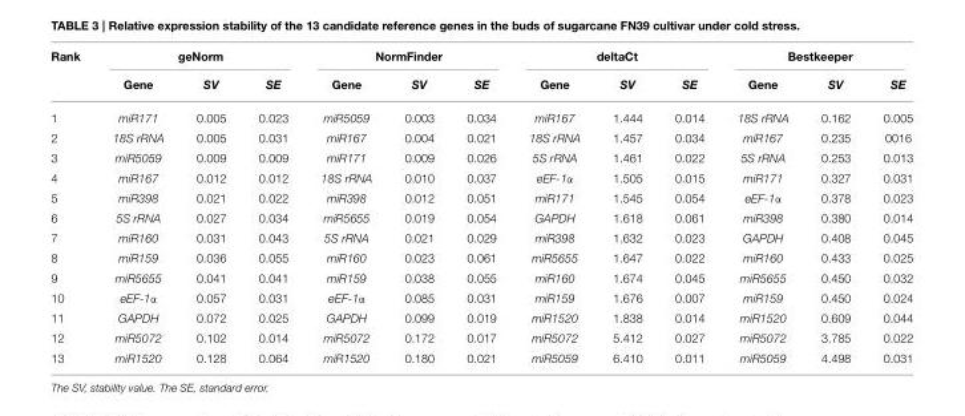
<table><thead><tr><td rowspan="2">Rank</td><td colspan="3">geNorm</td><td colspan="3">NormFinder</td><td colspan="3">deltaCt</td><td colspan="3">Bestkeeper</td></tr><tr><td>Gene</td><td>SV</td><td>SE</td><td>Gene</td><td>SV</td><td>SE</td><td>Gene</td><td>SV</td><td>SE</td><td>Gene</td><td>SV</td><td>SE</td></tr></thead><tbody><tr><td>1</td><td>miR171</td><td>0.005</td><td>0.023</td><td>miR5059</td><td>0.003</td><td>0.034</td><td>miR167</td><td>1.444</td><td>0.014</td><td>18S rRNA</td><td>0.162</td><td>0.005</td></tr><tr><td>2</td><td>18S rRNA</td><td>0.005</td><td>0.031</td><td>miR167</td><td>0.004</td><td>0.021</td><td>18S rRNA</td><td>1.457</td><td>0.034</td><td>miR167</td><td>0.235</td><td>0016</td></tr><tr><td>3</td><td>miR5059</td><td>0.009</td><td>0.009</td><td>miR171</td><td>0.009</td><td>0.026</td><td>5S rRNA</td><td>1.461</td><td>0.022</td><td>5S rRNA</td><td>0.253</td><td>0.013</td></tr><tr><td>4</td><td>miR167</td><td>0.012</td><td>0.012</td><td>18S rRNA</td><td>0.010</td><td>0.037</td><td>eEF-1α</td><td>1.505</td><td>0.015</td><td>miR171</td><td>0.327</td><td>0.031</td></tr><tr><td>5</td><td>miR398</td><td>0.021</td><td>0.022</td><td>miR398</td><td>0.012</td><td>0.051</td><td>miR171</td><td>1.545</td><td>0.054</td><td>eEF-1α</td><td>0.378</td><td>0.023</td></tr><tr><td>6</td><td>5S rRNA</td><td>0.027</td><td>0.034</td><td>miR5655</td><td>0.019</td><td>0.054</td><td>GAPDH</td><td>1.618</td><td>0.061</td><td>miR398</td><td>0.380</td><td>0.014</td></tr><tr><td>7</td><td>miR160</td><td>0.031</td><td>0.043</td><td>5S rRNA</td><td>0.021</td><td>0.029</td><td>miR398</td><td>1.632</td><td>0.023</td><td>GAPDH</td><td>0.408</td><td>0.045</td></tr><tr><td>8</td><td>miR159</td><td>0.036</td><td>0.055</td><td>miR160</td><td>0.023</td><td>0.061</td><td>miR5655</td><td>1.647</td><td>0.022</td><td>miR160</td><td>0.433</td><td>0.025</td></tr><tr><td>9</td><td>miR5655</td><td>0.041</td><td>0.041</td><td>miR159</td><td>0.038</td><td>0.055</td><td>miR160</td><td>1.674</td><td>0.045</td><td>miR5655</td><td>0.450</td><td>0.032</td></tr><tr><td>10</td><td>eEF-1α</td><td>0.057</td><td>0.031</td><td>eEF-1α</td><td>0.085</td><td>0.031</td><td>miR159</td><td>1.676</td><td>0.007</td><td>miR159</td><td>0.450</td><td>0.024</td></tr><tr><td>11</td><td>GAPDH</td><td>0.072</td><td>0.025</td><td>GAPDH</td><td>0.099</td><td>0.019</td><td>miR1520</td><td>1.838</td><td>0.014</td><td>miR1520</td><td>0.609</td><td>0.044</td></tr><tr><td>12</td><td>miR5072</td><td>0.102</td><td>0.014</td><td>miR5072</td><td>0.172</td><td>0.017</td><td>miR5072</td><td>5.412</td><td>0.027</td><td>miR5072</td><td>3.785</td><td>0.022</td></tr><tr><td>13</td><td>miR1520</td><td>0.128</td><td>0.064</td><td>miR1520</td><td>0.180</td><td>0.021</td><td>miR5059</td><td>6.410</td><td>0.011</td><td>miR5059</td><td>4.498</td><td>0.031</td></tr></tbody></table>